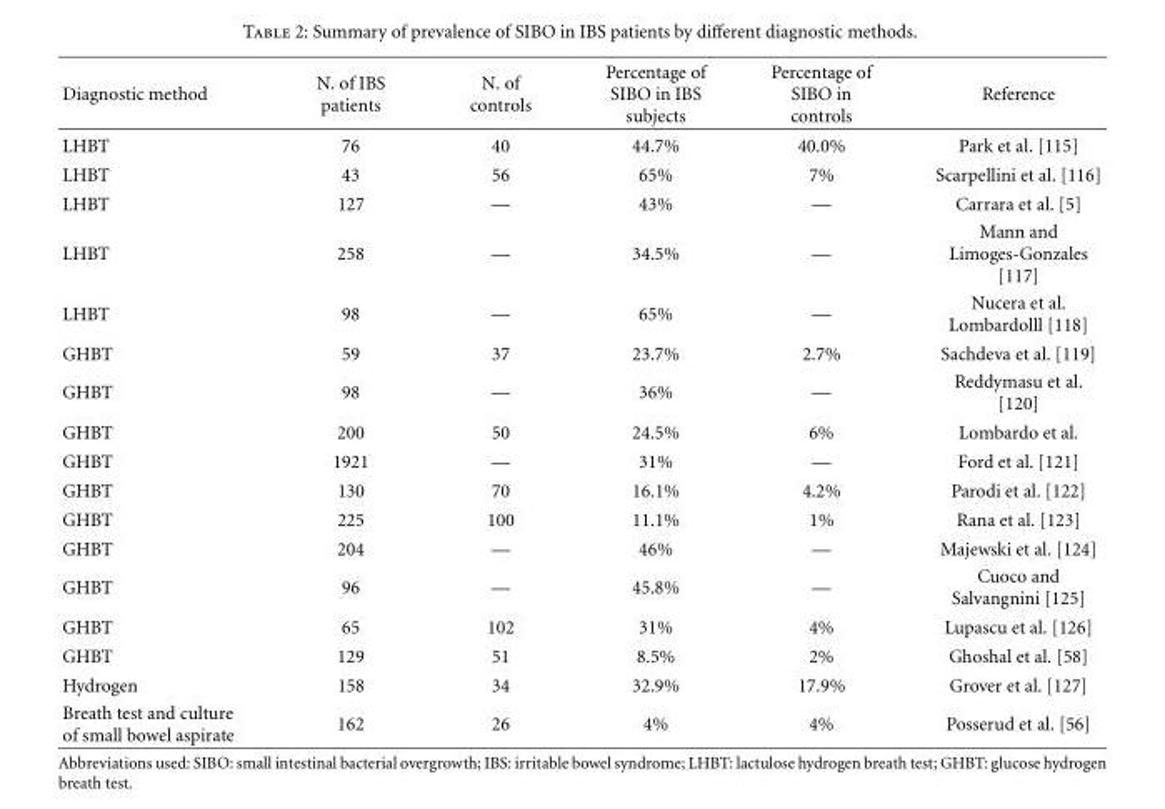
<table><thead><tr><td>Diagnostic method</td><td>N. of IBS patients</td><td>N. of controls</td><td>Percentage of SIBO in IBS subjects</td><td>Percentage of SIBO in controls</td><td>Reference</td></tr></thead><tbody><tr><td>LHBT</td><td>76</td><td>40</td><td>44.7%</td><td>40.0%</td><td>Park et al. [115]</td></tr><tr><td>LHBT</td><td>43</td><td>56</td><td>65%</td><td>7%</td><td>Scarpellini et al. [116]</td></tr><tr><td>LHBT</td><td>127</td><td>—</td><td>43%</td><td>—</td><td>Carrara et al. [5]</td></tr><tr><td>LHBT</td><td>258</td><td>—</td><td>34.5%</td><td>—</td><td>Mann and Limoges-Gonzales [117]</td></tr><tr><td>LHBT</td><td>98</td><td>—</td><td>65%</td><td>—</td><td>Nucera et al. Lombardolll [118]</td></tr><tr><td>GHBT</td><td>59</td><td>37</td><td>23.7%</td><td>2.7%</td><td>Sachdeva et al. [119]</td></tr><tr><td>GHBT</td><td>98</td><td>—</td><td>36%</td><td>—</td><td>Reddymasu et al. [120]</td></tr><tr><td>GHBT</td><td>200</td><td>50</td><td>24.5%</td><td>6%</td><td>Lombardo et al.</td></tr><tr><td>GHBT</td><td>1921</td><td>—</td><td>31%</td><td>—</td><td>Ford et al. [121]</td></tr><tr><td>GHBT</td><td>130</td><td>70</td><td>16.1%</td><td>4.2%</td><td>Parodi et al. [122]</td></tr><tr><td>GHBT</td><td>225</td><td>100</td><td>11.1%</td><td>1%</td><td>Rana et al. [123]</td></tr><tr><td>GHBT</td><td>204</td><td>—</td><td>46%</td><td>—</td><td>Majewski et al. [124]</td></tr><tr><td>GHBT</td><td>96</td><td>—</td><td>45.8%</td><td>—</td><td>Cuoco and Salvangnini [125]</td></tr><tr><td>GHBT</td><td>65</td><td>102</td><td>31%</td><td>4%</td><td>Lupascu et al. [126]</td></tr><tr><td>GHBT</td><td>129</td><td>51</td><td>8.5%</td><td>2%</td><td>Ghoshal et al. [58]</td></tr><tr><td>Hydrogen</td><td>158</td><td>34</td><td>32.9%</td><td>17.9%</td><td>Grover et al. [127]</td></tr><tr><td>Breath test and culture of small bowel aspirate</td><td>162</td><td>26</td><td>4%</td><td>4%</td><td>Posserud et al. [56]</td></tr></tbody></table>